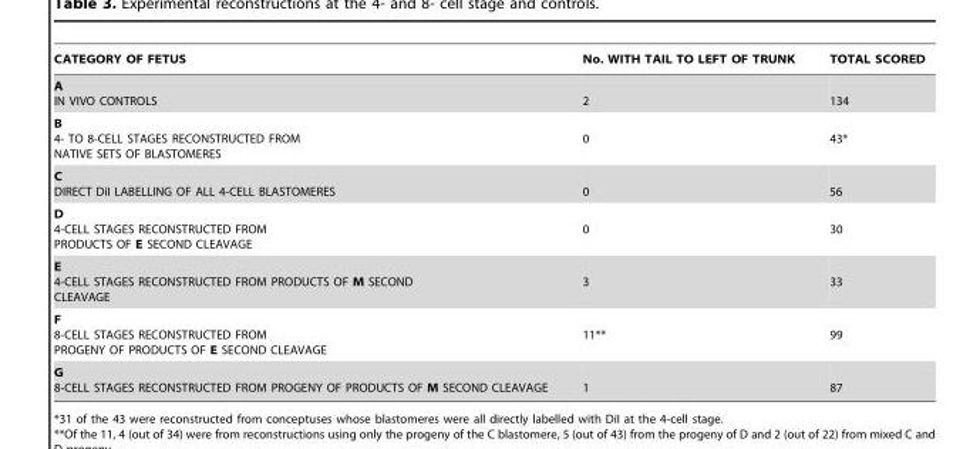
<table><thead><tr><td>CATEGORY OF FETUS</td><td>No. WITH TAIL TO LEFT OF TRUNK</td><td>TOTAL SCORED</td></tr></thead><tbody><tr><td>A IN VIVO CONTROLS</td><td>2</td><td>134</td></tr><tr><td>B 4- TO 8-CELL STAGES RECONSTRUCTED FROM NATIVE SETS OF BLASTOMERES</td><td>0</td><td>43*</td></tr><tr><td>C DIRECT DiI LABELLING OF ALL 4-CELL BLASTOMERES</td><td>0</td><td>56</td></tr><tr><td>D 4-CELL STAGES RECONSTRUCTED FROM PRODUCTS OF E SECOND CLEAVAGE</td><td>0</td><td>30</td></tr><tr><td>E 4-CELL STAGES RECONSTRUCTED FROM PRODUCTS OF M SECOND CLEAVAGE</td><td>3</td><td>33</td></tr><tr><td>F 8-CELL STAGES RECONSTRUCTED FROM PROGENY OF PRODUCTS OF E SECOND CLEAVAGE</td><td>11**</td><td>99</td></tr><tr><td>G 8-CELL STAGES RECONSTRUCTED FROM PROGENY OF PRODUCTS OF M SECOND CLEAVAGE</td><td>1</td><td>87</td></tr></tbody></table>